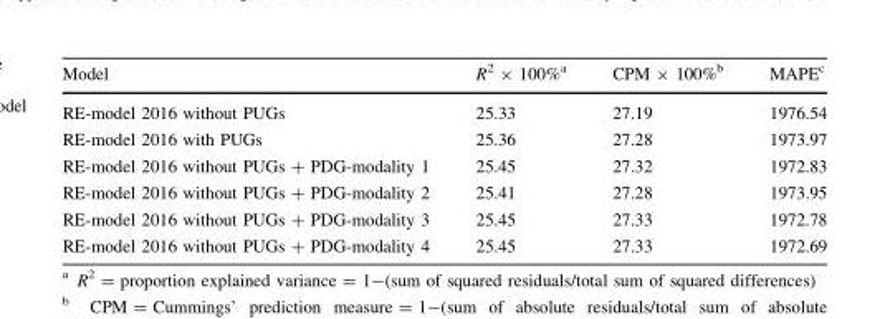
<table><thead><tr><td>Model</td><td>R<sup>2</sup> × 100%<sup>a</sup></td><td>CPM × 100%<sup>b</sup></td><td>MAPE<sup>c</sup></td></tr></thead><tbody><tr><td>RE-model 2016 without PUGs</td><td>25.33</td><td>27.19</td><td>1976.54</td></tr><tr><td>RE-model 2016 with PUGs</td><td>25.36</td><td>27.28</td><td>1973.97</td></tr><tr><td>RE-model 2016 without PUGs + PDG-modality 1</td><td>25.45</td><td>27.32</td><td>1972.83</td></tr><tr><td>RE-model 2016 without PUGs + PDG-modality 2</td><td>25.41</td><td>27.28</td><td>1973.95</td></tr><tr><td>RE-model 2016 without PUGs + PDG-modality 3</td><td>25.45</td><td>27.33</td><td>1972.78</td></tr><tr><td>RE-model 2016 without PUGs + PDG-modality 4</td><td>25.45</td><td>27.33</td><td>1972.69</td></tr></tbody></table>